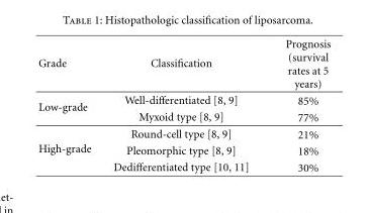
<table><thead><tr><td>Grade</td><td>Classification</td><td>Prognosis (survival rates at 5 years)</td></tr></thead><tbody><tr><td rowspan="2">Low-grade</td><td>Well-differentiated [8, 9]</td><td>85%</td></tr><tr><td>Myxoid type [8, 9]</td><td>77%</td></tr><tr><td rowspan="3">High-grade</td><td>Round-cell type [8, 9]</td><td>21%</td></tr><tr><td>Pleomorphic type [8, 9]</td><td>18%</td></tr><tr><td>Dedifferentiated type [10, 11]</td><td>30%</td></tr></tbody></table>